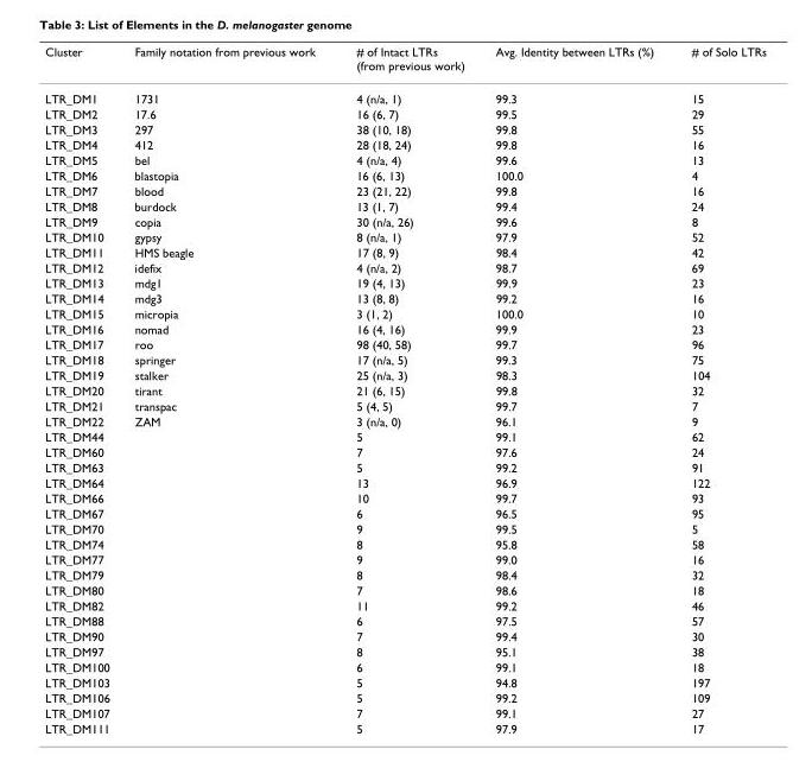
<table><thead><tr><td>Cluster</td><td>Family notation from previous work</td><td># of Intact LTRs (from previous work)</td><td>Avg. Identity between LTRs (%)</td><td># of Solo LTRs</td></tr></thead><tbody><tr><td>LTR_DM1</td><td>1731</td><td>4 (n/a, 1)</td><td>99.3</td><td>15</td></tr><tr><td>LTR_DM2</td><td>17.6</td><td>16 (6, 7)</td><td>99.5</td><td>29</td></tr><tr><td>LTR_DM3</td><td>297</td><td>38 (10, 18)</td><td>99.8</td><td>55</td></tr><tr><td>LTR_DM4</td><td>412</td><td>28 (18, 24)</td><td>99.8</td><td>16</td></tr><tr><td>LTR_DM5</td><td>bel</td><td>4 (n/a, 4)</td><td>99.6</td><td>13</td></tr><tr><td>LTR_DM6</td><td>blastopia</td><td>16 (6, 13)</td><td>100.0</td><td>4</td></tr><tr><td>LTR_DM7</td><td>blood</td><td>23 (21, 22)</td><td>99.8</td><td>16</td></tr><tr><td>LTR_DM8</td><td>burdock</td><td>13 (1, 7)</td><td>99.4</td><td>24</td></tr><tr><td>LTR_DM9</td><td>copia</td><td>30 (n/a, 26)</td><td>99.6</td><td>8</td></tr><tr><td>LTR_DM10</td><td>gypsy</td><td>8 (n/a, 1)</td><td>97.9</td><td>52</td></tr><tr><td>LTR_DM11</td><td>HMS beagle</td><td>17 (8, 9)</td><td>98.4</td><td>42</td></tr><tr><td>LTR_DM12</td><td>idefix</td><td>4 (n/a, 2)</td><td>98.7</td><td>69</td></tr><tr><td>LTR_DM13</td><td>mdg1</td><td>19 (4, 13)</td><td>99.9</td><td>23</td></tr><tr><td>LTR_DM14</td><td>mdg3</td><td>13 (8, 8)</td><td>99.2</td><td>16</td></tr><tr><td>LTR_DM15</td><td>micropia</td><td>3 (1, 2)</td><td>100.0</td><td>10</td></tr><tr><td>LTR_DM16</td><td>nomad</td><td>16 (4, 16)</td><td>99.9</td><td>23</td></tr><tr><td>LTR_DM17</td><td>roo</td><td>98 (40, 58)</td><td>99.7</td><td>96</td></tr><tr><td>LTR_DM18</td><td>springer</td><td>17 (n/a, 5)</td><td>99.3</td><td>75</td></tr><tr><td>LTR_DM19</td><td>stalker</td><td>25 (n/a, 3)</td><td>98.3</td><td>104</td></tr><tr><td>LTR_DM20</td><td>tirant</td><td>21 (6, 15)</td><td>99.8</td><td>32</td></tr><tr><td>LTR_DM21</td><td>transpac</td><td>5 (4, 5)</td><td>99.7</td><td>7</td></tr><tr><td>LTR_DM22</td><td>ZAM</td><td>3 (n/a, 0)</td><td>96.1</td><td>9</td></tr><tr><td>LTR_DM44</td><td></td><td>5</td><td>99.1</td><td>62</td></tr><tr><td>LTR_DM60</td><td></td><td>7</td><td>97.6</td><td>24</td></tr><tr><td>LTR_DM63</td><td></td><td>5</td><td>99.2</td><td>91</td></tr><tr><td>LTR_DM64</td><td></td><td>13</td><td>96.9</td><td>122</td></tr><tr><td>LTR_DM66</td><td></td><td>10</td><td>99.7</td><td>93</td></tr><tr><td>LTR_DM67</td><td></td><td>6</td><td>96.5</td><td>95</td></tr><tr><td>LTR_DM70</td><td></td><td>9</td><td>99.5</td><td>5</td></tr><tr><td>LTR_DM74</td><td></td><td>8</td><td>95.8</td><td>58</td></tr><tr><td>LTR_DM77</td><td></td><td>9</td><td>99.0</td><td>16</td></tr><tr><td>LTR_DM79</td><td></td><td>8</td><td>98.4</td><td>32</td></tr><tr><td>LTR_DM80</td><td></td><td>7</td><td>98.6</td><td>18</td></tr><tr><td>LTR_DM82</td><td></td><td>11</td><td>99.2</td><td>46</td></tr><tr><td>LTR_DM88</td><td></td><td>6</td><td>97.5</td><td>57</td></tr><tr><td>LTR_DM90</td><td></td><td>7</td><td>99.4</td><td>30</td></tr><tr><td>LTR_DM97</td><td></td><td>8</td><td>95.1</td><td>38</td></tr><tr><td>LTR_DM100</td><td></td><td>6</td><td>99.1</td><td>18</td></tr><tr><td>LTR_DM103</td><td></td><td>5</td><td>94.8</td><td>197</td></tr><tr><td>LTR_DM106</td><td></td><td>5</td><td>99.2</td><td>109</td></tr><tr><td>LTR_DM107</td><td></td><td>7</td><td>99.1</td><td>27</td></tr><tr><td>LTR_DM111</td><td></td><td>5</td><td>97.9</td><td>17</td></tr></tbody></table>